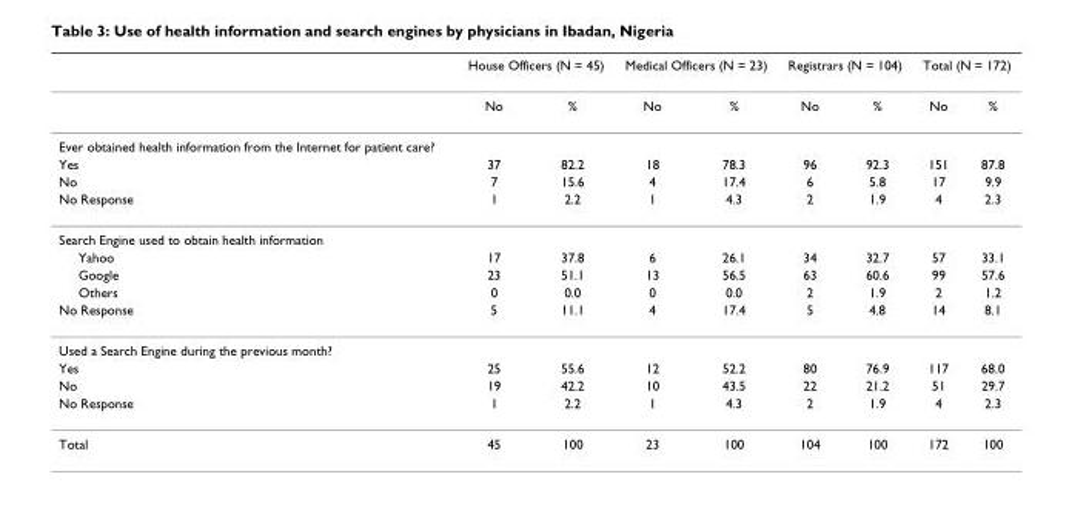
<table><thead><tr><td rowspan="2"></td><td colspan="2">House Officers (N = 45)</td><td colspan="2">Medical Officers (N = 23)</td><td colspan="2">Registrars (N = 104)</td><td colspan="2">Total (N = 172)</td></tr><tr><td>No</td><td>%</td><td>No</td><td>%</td><td>No</td><td>%</td><td>No</td><td>%</td></tr></thead><tbody><tr><td colspan="9">Ever obtained health information from the Internet for patient care?</td></tr><tr><td>Yes</td><td>37</td><td>82.2</td><td>18</td><td>78.3</td><td>96</td><td>92.3</td><td>151</td><td>87.8</td></tr><tr><td>No</td><td>7</td><td>15.6</td><td>4</td><td>17.4</td><td>6</td><td>5.8</td><td>17</td><td>9.9</td></tr><tr><td>No Response</td><td>1</td><td>2.2</td><td>1</td><td>4.3</td><td>2</td><td>1.9</td><td>4</td><td>2.3</td></tr><tr><td colspan="9">Search Engine used to obtain health information</td></tr><tr><td>Yahoo</td><td>17</td><td>37.8</td><td>6</td><td>26.1</td><td>34</td><td>32.7</td><td>57</td><td>33.1</td></tr><tr><td>Google</td><td>23</td><td>51.1</td><td>13</td><td>56.5</td><td>63</td><td>60.6</td><td>99</td><td>57.6</td></tr><tr><td>Others</td><td>0</td><td>0.0</td><td>0</td><td>0.0</td><td>2</td><td>1.9</td><td>2</td><td>1.2</td></tr><tr><td>No Response</td><td>5</td><td>11.1</td><td>4</td><td>17.4</td><td>5</td><td>4.8</td><td>14</td><td>8.1</td></tr><tr><td colspan="9">Used a Search Engine during the previous month?</td></tr><tr><td>Yes</td><td>25</td><td>55.6</td><td>12</td><td>52.2</td><td>80</td><td>76.9</td><td>117</td><td>68.0</td></tr><tr><td>No</td><td>19</td><td>42.2</td><td>10</td><td>43.5</td><td>22</td><td>21.2</td><td>51</td><td>29.7</td></tr><tr><td>No Response</td><td>1</td><td>2.2</td><td>1</td><td>4.3</td><td>2</td><td>1.9</td><td>4</td><td>2.3</td></tr><tr><td>Total</td><td>45</td><td>100</td><td>23</td><td>100</td><td>104</td><td>100</td><td>172</td><td>100</td></tr></tbody></table>